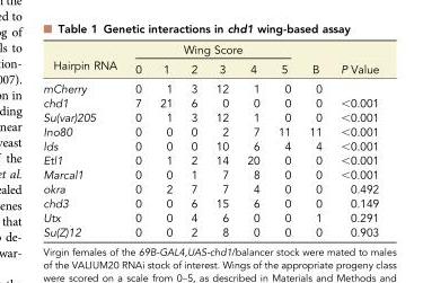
<table><thead><tr><td rowspan="2">Hairpin RNA</td><td colspan="6">Wing Score</td><td rowspan="2">B</td><td rowspan="2">P Value</td></tr><tr><td>0</td><td>1</td><td>2</td><td>3</td><td>4</td><td>5</td></tr></thead><tbody><tr><td>mCherry</td><td>0</td><td>1</td><td>3</td><td>12</td><td>1</td><td>0</td><td>0</td><td></td></tr><tr><td>chd1</td><td>7</td><td>21</td><td>6</td><td>0</td><td>0</td><td>0</td><td>0</td><td>&lt;0.001</td></tr><tr><td>Su(var)205</td><td>0</td><td>1</td><td>3</td><td>12</td><td>1</td><td>0</td><td>0</td><td>&lt;0.001</td></tr><tr><td>Ino80</td><td>0</td><td>0</td><td>0</td><td>2</td><td>7</td><td>11</td><td>11</td><td>&lt;0.001</td></tr><tr><td>lds</td><td>0</td><td>0</td><td>0</td><td>10</td><td>6</td><td>4</td><td>4</td><td>&lt;0.001</td></tr><tr><td>Etl1</td><td>0</td><td>1</td><td>2</td><td>14</td><td>20</td><td>0</td><td>0</td><td>&lt;0.001</td></tr><tr><td>Marcal1</td><td>0</td><td>0</td><td>1</td><td>7</td><td>8</td><td>0</td><td>0</td><td>&lt;0.001</td></tr><tr><td>okra</td><td>0</td><td>2</td><td>7</td><td>7</td><td>4</td><td>0</td><td>0</td><td>0.492</td></tr><tr><td>chd3</td><td>0</td><td>0</td><td>6</td><td>15</td><td>6</td><td>0</td><td>0</td><td>0.149</td></tr><tr><td>Utx</td><td>0</td><td>0</td><td>4</td><td>6</td><td>0</td><td>0</td><td>1</td><td>0.291</td></tr><tr><td>Su(Z)12</td><td>0</td><td>0</td><td>2</td><td>8</td><td>0</td><td>0</td><td>0</td><td>0.903</td></tr></tbody></table>